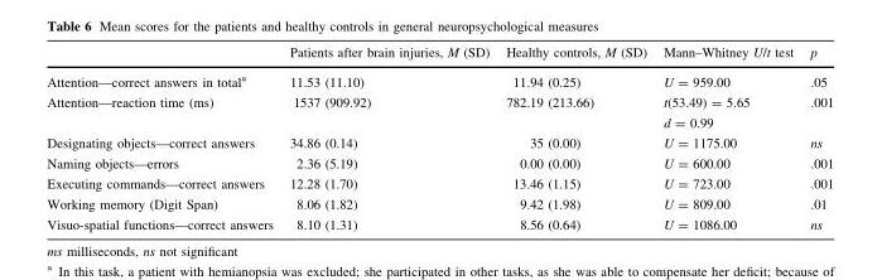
<table><thead><tr><td></td><td>Patients after brain injuries, M (SD)</td><td>Healthy controls, M (SD)</td><td>Mann–Whitney U/t test</td><td>p</td></tr></thead><tbody><tr><td>Attention—correct answers in total<sup>a</sup></td><td>11.53 (11.10)</td><td>11.94 (0.25)</td><td>U = 959.00</td><td>.05</td></tr><tr><td>Attention—reaction time (ms)</td><td>1537 (909.92)</td><td>782.19 (213.66)</td><td>t(53.49) = 5.65 d = 0.99</td><td>.001</td></tr><tr><td>Designating objects—correct answers</td><td>34.86 (0.14)</td><td>35 (0.00)</td><td>U = 1175.00</td><td>ns</td></tr><tr><td>Naming objects—errors</td><td>2.36 (5.19)</td><td>0.00 (0.00)</td><td>U = 600.00</td><td>.001</td></tr><tr><td>Executing commands—correct answers</td><td>12.28 (1.70)</td><td>13.46 (1.15)</td><td>U = 723.00</td><td>.001</td></tr><tr><td>Working memory (Digit Span)</td><td>8.06 (1.82)</td><td>9.42 (1.98)</td><td>U = 809.00</td><td>.01</td></tr><tr><td>Visuo-spatial functions—correct answers</td><td>8.10 (1.31)</td><td>8.56 (0.64)</td><td>U = 1086.00</td><td>ns</td></tr></tbody></table>